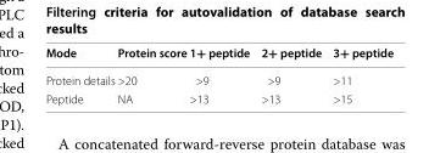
<table><thead><tr><td>Mode</td><td>Protein score</td><td>1+ peptide</td><td>2+ peptide</td><td>3+ peptide</td></tr></thead><tbody><tr><td>Protein details</td><td>&gt;20</td><td>&gt;9</td><td>&gt;9</td><td>&gt;11</td></tr><tr><td>Peptide</td><td>NA</td><td>&gt;13</td><td>&gt;13</td><td>&gt;15</td></tr></tbody></table>